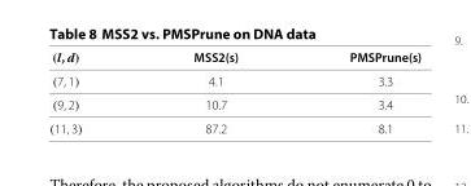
<table><thead><tr><td>(l, d)</td><td>MSS2(s)</td><td>PMSPrune(s)</td></tr></thead><tbody><tr><td>(7, 1)</td><td>4.1</td><td>3.3</td></tr><tr><td>(9, 2)</td><td>10.7</td><td>3.4</td></tr><tr><td>(11, 3)</td><td>87.2</td><td>8.1</td></tr></tbody></table>